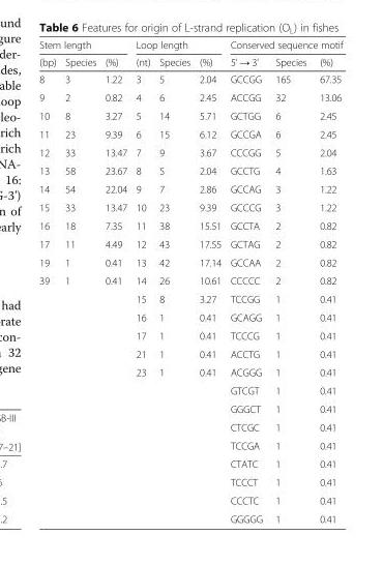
<table><thead><tr><td colspan="3">Stem length</td><td colspan="3">Loop length</td><td colspan="3">Conserved sequence motif</td></tr><tr><td>(bp)</td><td>Species</td><td>(%)</td><td>(nt)</td><td>Species</td><td>(%)</td><td>5’ → 3’</td><td>Species</td><td>(%)</td></tr></thead><tbody><tr><td>8</td><td>3</td><td>1.22</td><td>3</td><td>5</td><td>2.04</td><td>GCCGG</td><td>165</td><td>67.35</td></tr><tr><td>9</td><td>2</td><td>0.82</td><td>4</td><td>6</td><td>2.45</td><td>ACCGG</td><td>32</td><td>13.06</td></tr><tr><td>10</td><td>8</td><td>3.27</td><td>5</td><td>14</td><td>5.71</td><td>GCTGG</td><td>6</td><td>2.45</td></tr><tr><td>11</td><td>23</td><td>9.39</td><td>6</td><td>15</td><td>6.12</td><td>GCCGA</td><td>6</td><td>2.45</td></tr><tr><td>12</td><td>33</td><td>13.47</td><td>7</td><td>9</td><td>3.67</td><td>CCCGG</td><td>5</td><td>2.04</td></tr><tr><td>13</td><td>58</td><td>23.67</td><td>8</td><td>5</td><td>2.04</td><td>GCCTG</td><td>4</td><td>1.63</td></tr><tr><td>14</td><td>54</td><td>22.04</td><td>9</td><td>7</td><td>2.86</td><td>GCCAG</td><td>3</td><td>1.22</td></tr><tr><td>15</td><td>33</td><td>13.47</td><td>10</td><td>23</td><td>9.39</td><td>GCCCG</td><td>3</td><td>1.22</td></tr><tr><td>16</td><td>18</td><td>7.35</td><td>11</td><td>38</td><td>15.51</td><td>GCCTA</td><td>2</td><td>0.82</td></tr><tr><td>17</td><td>11</td><td>4.49</td><td>12</td><td>43</td><td>17.55</td><td>GCTAG</td><td>2</td><td>0.82</td></tr><tr><td>19</td><td>1</td><td>0.41</td><td>13</td><td>42</td><td>17.14</td><td>GCCAA</td><td>2</td><td>0.82</td></tr><tr><td rowspan="14">39</td><td>1</td><td>0.41</td><td>14</td><td>26</td><td>10.61</td><td>CCCCC</td><td>2</td><td>0.82</td></tr><tr><td></td><td></td><td>15</td><td>8</td><td>3.27</td><td>TCCGG</td><td>1</td><td>0.41</td></tr><tr><td></td><td></td><td>16</td><td>1</td><td>0.41</td><td>GCAGG</td><td>1</td><td>0.41</td></tr><tr><td></td><td></td><td>17</td><td>1</td><td>0.41</td><td>TCCCG</td><td>1</td><td>0.41</td></tr><tr><td></td><td></td><td>21</td><td>1</td><td>0.41</td><td>ACCTG</td><td>1</td><td>0.41</td></tr><tr><td></td><td></td><td>23</td><td>1</td><td>0.41</td><td>ACGGG</td><td>1</td><td>0.41</td></tr><tr><td></td><td></td><td></td><td></td><td></td><td>GTCGT</td><td>1</td><td>0.41</td></tr><tr><td></td><td></td><td></td><td></td><td></td><td>GGGCT</td><td>1</td><td>0.41</td></tr><tr><td></td><td></td><td></td><td></td><td></td><td>CTCGC</td><td>1</td><td>0.41</td></tr><tr><td></td><td></td><td></td><td></td><td></td><td>TCCGA</td><td>1</td><td>0.41</td></tr><tr><td></td><td></td><td></td><td></td><td></td><td>CTATC</td><td>1</td><td>0.41</td></tr><tr><td></td><td></td><td></td><td></td><td></td><td>TCCCT</td><td>1</td><td>0.41</td></tr><tr><td></td><td></td><td></td><td></td><td></td><td>CCCTC</td><td>1</td><td>0.41</td></tr><tr><td></td><td></td><td></td><td></td><td></td><td>GGGGG</td><td>1</td><td>0.41</td></tr></tbody></table>